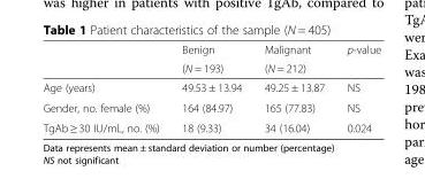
<table><thead><tr><td rowspan="2"></td><td rowspan="2">Benign (N = 193)</td><td rowspan="2">Malignant (N = 212)</td><td rowspan="2">p-value</td></tr><tr></tr></thead><tbody><tr><td>Age (years)</td><td>49.53 ± 13.94</td><td>49.25 ± 13.87</td><td>NS</td></tr><tr><td>Gender, no. female (%)</td><td>164 (84.97)</td><td>165 (77.83)</td><td>NS</td></tr><tr><td>TgAb ≥ 30 IU/mL, no. (%)</td><td>18 (9.33)</td><td>34 (16.04)</td><td>0.024</td></tr></tbody></table>